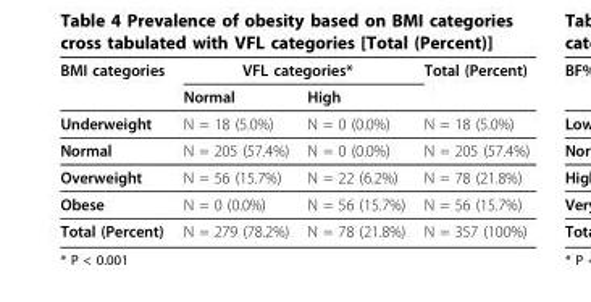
<table><thead><tr><td rowspan="2">BMI categories</td><td colspan="2">VFL categories*</td><td rowspan="2">Total (Percent)</td></tr><tr><td>Normal</td><td>High</td></tr></thead><tbody><tr><td>Underweight</td><td>N = 18 (5.0%)</td><td>N = 0 (0.0%)</td><td>N = 18 (5.0%)</td></tr><tr><td>Normal</td><td>N = 205 (57.4%)</td><td>N = 0 (0.0%)</td><td>N = 205 (57.4%)</td></tr><tr><td>Overweight</td><td>N = 56 (15.7%)</td><td>N = 22 (6.2%)</td><td>N = 78 (21.8%)</td></tr><tr><td>Obese</td><td>N = 0 (0.0%)</td><td>N = 56 (15.7%)</td><td>N = 56 (15.7%)</td></tr><tr><td>Total (Percent)</td><td>N = 279 (78.2%)</td><td>N = 78 (21.8%)</td><td>N = 357 (100%)</td></tr></tbody></table>